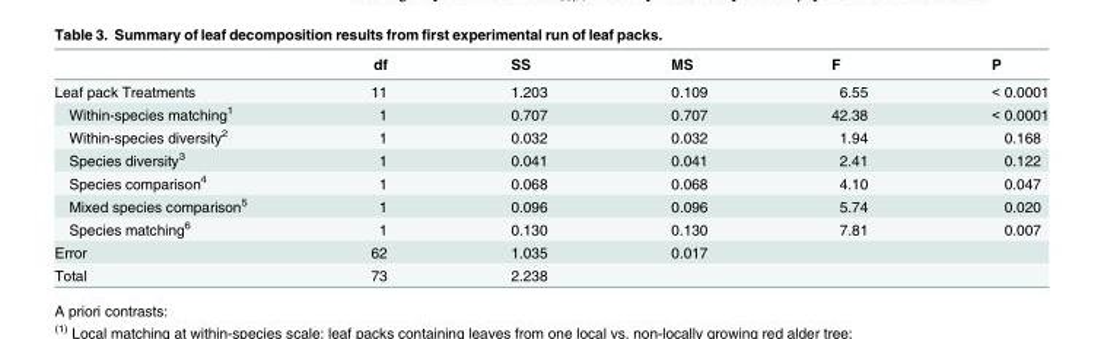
<table><thead><tr><td></td><td>df</td><td>SS</td><td>MS</td><td>F</td><td>P</td></tr></thead><tbody><tr><td>Leaf pack Treatments</td><td>11</td><td>1.203</td><td>0.109</td><td>6.55</td><td>&lt; 0.0001</td></tr><tr><td>Within-species matching<sup>1</sup></td><td>1</td><td>0.707</td><td>0.707</td><td>42.38</td><td>&lt; 0.0001</td></tr><tr><td>Within-species diversity<sup>2</sup></td><td>1</td><td>0.032</td><td>0.032</td><td>1.94</td><td>0.168</td></tr><tr><td>Species diversity<sup>3</sup></td><td>1</td><td>0.041</td><td>0.041</td><td>2.41</td><td>0.122</td></tr><tr><td>Species comparison<sup>4</sup></td><td>1</td><td>0.068</td><td>0.068</td><td>4.10</td><td>0.047</td></tr><tr><td>Mixed species comparison<sup>5</sup></td><td>1</td><td>0.096</td><td>0.096</td><td>5.74</td><td>0.020</td></tr><tr><td>Species matching<sup>6</sup></td><td>1</td><td>0.130</td><td>0.130</td><td>7.81</td><td>0.007</td></tr><tr><td>Error</td><td>62</td><td>1.035</td><td>0.017</td><td></td><td></td></tr><tr><td>Total</td><td>73</td><td>2.238</td><td></td><td></td><td></td></tr></tbody></table>